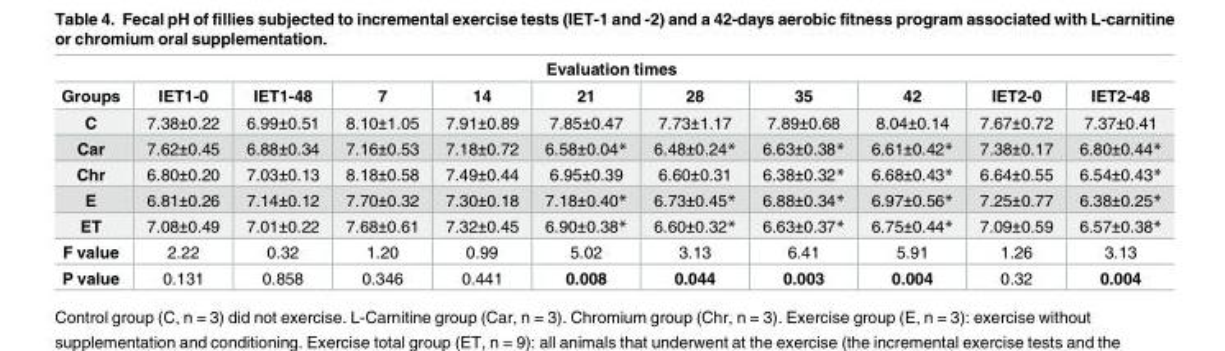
<table><thead><tr><td colspan="11">Evaluation times</td></tr><tr><td>Groups</td><td>IET1-0</td><td>IET1-48</td><td>7</td><td>14</td><td>21</td><td>28</td><td>35</td><td>42</td><td>IET2-0</td><td>IET2-48</td></tr></thead><tbody><tr><td>C</td><td>7.38±0.22</td><td>6.99±0.51</td><td>8.10±1.05</td><td>7.91±0.89</td><td>7.85±0.47</td><td>7.73±1.17</td><td>7.89±0.68</td><td>8.04±0.14</td><td>7.67±0.72</td><td>7.37±0.41</td></tr><tr><td>Car</td><td>7.62±0.45</td><td>6.88±0.34</td><td>7.16±0.53</td><td>7.18±0.72</td><td>6.58±0.04*</td><td>6.48±0.24*</td><td>6.63±0.38*</td><td>6.61±0.42*</td><td>7.38±0.17</td><td>6.80±0.44*</td></tr><tr><td>Chr</td><td>6.80±0.20</td><td>7.03±0.13</td><td>8.18±0.58</td><td>7.49±0.44</td><td>6.95±0.39</td><td>6.60±0.31</td><td>6.38±0.32*</td><td>6.68±0.43*</td><td>6.64±0.55</td><td>6.54±0.43*</td></tr><tr><td>E</td><td>6.81±0.26</td><td>7.14±0.12</td><td>7.70±0.32</td><td>7.30±0.18</td><td>7.18±0.40*</td><td>6.73±0.45*</td><td>6.88±0.34*</td><td>6.97±0.56*</td><td>7.25±0.77</td><td>6.38±0.25*</td></tr><tr><td>ET</td><td>7.08±0.49</td><td>7.01±0.22</td><td>7.68±0.61</td><td>7.32±0.45</td><td>6.90±0.38*</td><td>6.60±0.32*</td><td>6.63±0.37*</td><td>6.75±0.44*</td><td>7.09±0.59</td><td>6.57±0.38*</td></tr><tr><td>F value</td><td>2.22</td><td>0.32</td><td>1.20</td><td>0.99</td><td>5.02</td><td>3.13</td><td>6.41</td><td>5.91</td><td>1.26</td><td>3.13</td></tr><tr><td>P value</td><td>0.131</td><td>0.858</td><td>0.346</td><td>0.441</td><td>0.008</td><td>0.044</td><td>0.003</td><td>0.004</td><td>0.32</td><td>0.004</td></tr></tbody></table>